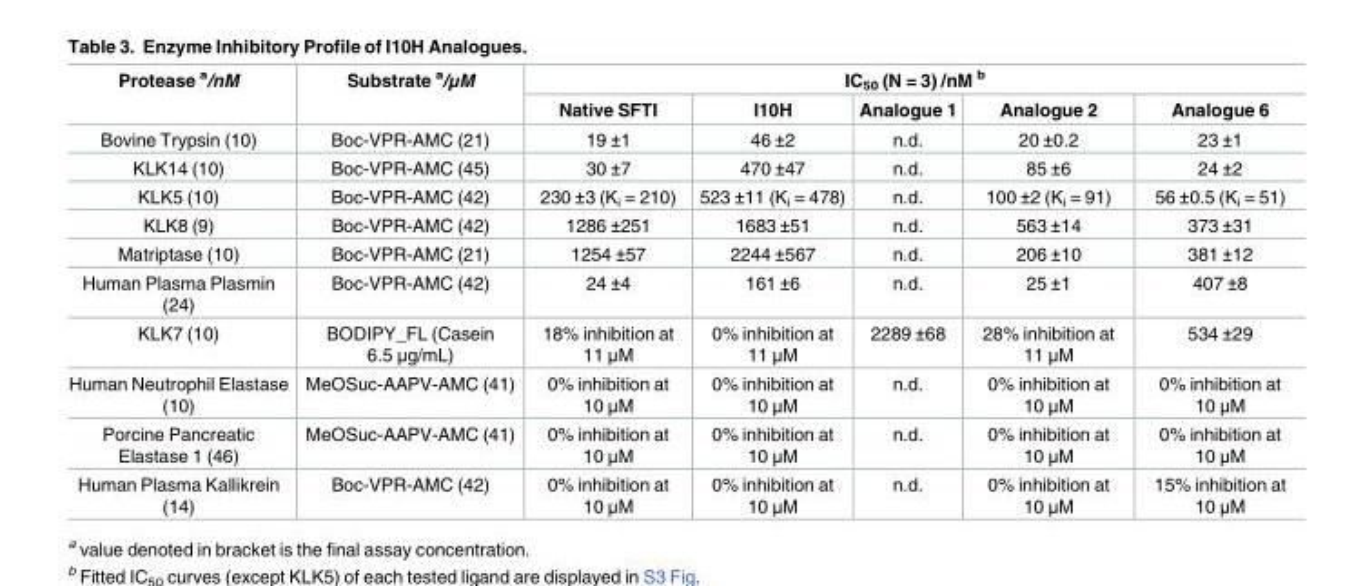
<table><thead><tr><td rowspan="2">Protease <sup>a</sup>/nM</td><td rowspan="2">Substrate <sup>a</sup>/μM</td><td colspan="5">IC<sub>50</sub> (N = 3) /nM <sup>b</sup></td></tr><tr><td>Native SFTI</td><td>I10H</td><td>Analogue 1</td><td>Analogue 2</td><td>Analogue 6</td></tr></thead><tbody><tr><td>Bovine Trypsin (10)</td><td>Boc-VPR-AMC (21)</td><td>19 ±1</td><td>46 ±2</td><td>n.d.</td><td>20 ±0.2</td><td>23 ±1</td></tr><tr><td>KLK14 (10)</td><td>Boc-VPR-AMC (45)</td><td>30 ±7</td><td>470 ±47</td><td>n.d.</td><td>85 ±6</td><td>24 ±2</td></tr><tr><td>KLK5 (10)</td><td>Boc-VPR-AMC (42)</td><td>230 ±3 (K<sub>i</sub> = 210)</td><td>523 ±11 (K<sub>i</sub> = 478)</td><td>n.d.</td><td>100 ±2 (K<sub>i</sub> = 91)</td><td>56 ±0.5 (K<sub>i</sub> = 51)</td></tr><tr><td>KLK8 (9)</td><td>Boc-VPR-AMC (42)</td><td>1286 ±251</td><td>1683 ±51</td><td>n.d.</td><td>563 ±14</td><td>373 ±31</td></tr><tr><td>Matriptase (10)</td><td>Boc-VPR-AMC (21)</td><td>1254 ±57</td><td>2244 ±567</td><td>n.d.</td><td>206 ±10</td><td>381 ±12</td></tr><tr><td>Human Plasma Plasmin (24)</td><td>Boc-VPR-AMC (42)</td><td>24 ±4</td><td>161 ±6</td><td>n.d.</td><td>25 ±1</td><td>407 ±8</td></tr><tr><td>KLK7 (10)</td><td>BODIPY_FL (Casein 6.5 μg/mL)</td><td>18% inhibition at 11 μM</td><td>0% inhibition at 11 μM</td><td>2289 ±68</td><td>28% inhibition at 11 μM</td><td>534 ±29</td></tr><tr><td>Human Neutrophil Elastase (10)</td><td>MeOSuc-AAPV-AMC (41)</td><td>0% inhibition at 10 μM</td><td>0% inhibition at 10 μM</td><td>n.d.</td><td>0% inhibition at 10 μM</td><td>0% inhibition at 10 μM</td></tr><tr><td>Porcine Pancreatic Elastase 1 (46)</td><td>MeOSuc-AAPV-AMC (41)</td><td>0% inhibition at 10 μM</td><td>0% inhibition at 10 μM</td><td>n.d.</td><td>0% inhibition at 10 μM</td><td>0% inhibition at 10 μM</td></tr><tr><td>Human Plasma Kallikrein (14)</td><td>Boc-VPR-AMC (42)</td><td>0% inhibition at 10 μM</td><td>0% inhibition at 10 μM</td><td>n.d.</td><td>0% inhibition at 10 μM</td><td>15% inhibition at 10 μM</td></tr></tbody></table>